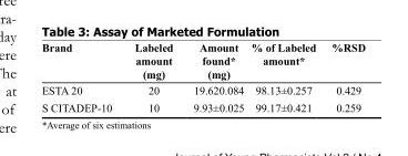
<table><thead><tr><td>Brand</td><td>Labeled amount (mg)</td><td>Amount found* (mg)</td><td>% of Labeled amount*</td><td>%RSD</td></tr></thead><tbody><tr><td>ESTA 20</td><td>20</td><td>19.620.084</td><td>98.13±0.257</td><td>0.429</td></tr><tr><td>S CITADEP-10</td><td>10</td><td>9.93±0.025</td><td>99.17±0.421</td><td>0.259</td></tr></tbody></table>